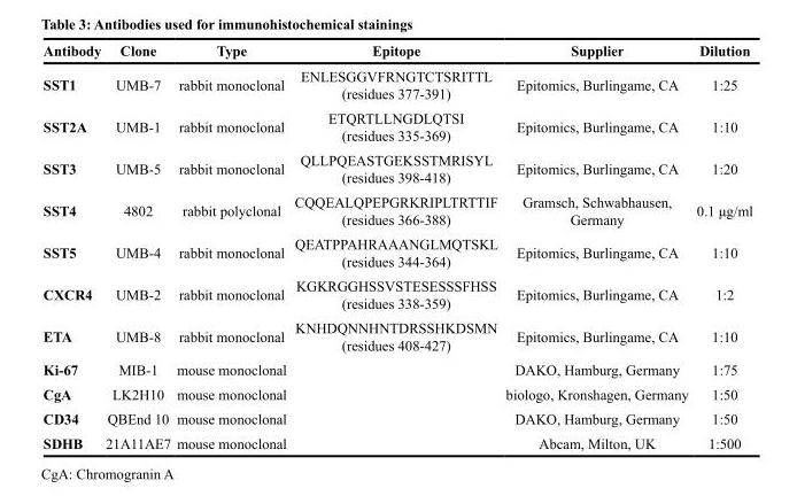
<table><thead><tr><td>Antibody</td><td>Clone</td><td>Type</td><td>Epitope</td><td>Supplier</td><td>Dilution</td></tr></thead><tbody><tr><td>SST1</td><td>UMB-7</td><td>rabbit monoclonal</td><td>ENLESGGVFRNGTCTSRITTL (residues 377-391)</td><td>Epitomics, Burlingame, CA</td><td>1:25</td></tr><tr><td>SST2A</td><td>UMB-1</td><td>rabbit monoclonal</td><td>ETQRTLLNGDLQTSI (residues 335-369)</td><td>Epitomics, Burlingame, CA</td><td>1:10</td></tr><tr><td>SST3</td><td>UMB-5</td><td>rabbit monoclonal</td><td>QLLPQEASTGEKSSTMRISYL (residues 398-418)</td><td>Epitomics, Burlingame, CA</td><td>1:20</td></tr><tr><td>SST4</td><td>4802</td><td>rabbit polyclonal</td><td>CQQEALQPEPGRKRIPLTRTTIF (residues 366-388)</td><td>Gramsch, Schwabhausen, Germany</td><td>0.1 μg/ml</td></tr><tr><td>SST5</td><td>UMB-4</td><td>rabbit monoclonal</td><td>QEATPPAHRAAANGLMQTSKL (residues 344-364)</td><td>Epitomics, Burlingame, CA</td><td>1:10</td></tr><tr><td>CXCR4</td><td>UMB-2</td><td>rabbit monoclonal</td><td>KGKRGGHSSVSTESESSSFHSS (residues 338-359)</td><td>Epitomics, Burlingame, CA</td><td>1:2</td></tr><tr><td>ETA</td><td>UMB-8</td><td>rabbit monoclonal</td><td>KNHDQNNHNTDRSSHKDSMN (residues 408-427)</td><td>Epitomics, Burlingame, CA</td><td>1:10</td></tr><tr><td>Ki-67</td><td>MIB-1</td><td>mouse monoclonal</td><td></td><td>DAKO, Hamburg, Germany</td><td>1:75</td></tr><tr><td>CgA</td><td>LK2H10</td><td>mouse monoclonal</td><td></td><td>biologo, Kronshagen, Germany</td><td>1:50</td></tr><tr><td>CD34</td><td>QBEnd 10</td><td>mouse monoclonal</td><td></td><td>DAKO, Hamburg, Germany</td><td>1:50</td></tr><tr><td>SDHB</td><td>21A11AE7</td><td>mouse monoclonal</td><td></td><td>Abcam, Milton, UK</td><td>1:500</td></tr></tbody></table>